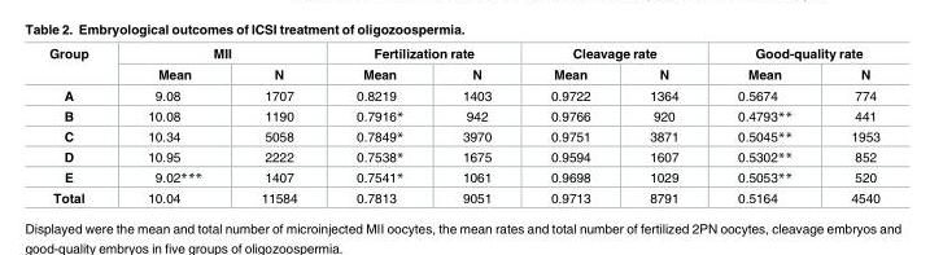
<table><thead><tr><td rowspan="2">Group</td><td colspan="2">MII</td><td colspan="2">Fertilization rate</td><td colspan="2">Cleavage rate</td><td colspan="2">Good-quality rate</td></tr><tr><td>Mean</td><td>N</td><td>Mean</td><td>N</td><td>Mean</td><td>N</td><td>Mean</td><td>N</td></tr></thead><tbody><tr><td>A</td><td>9.08</td><td>1707</td><td>0.8219</td><td>1403</td><td>0.9722</td><td>1364</td><td>0.5674</td><td>774</td></tr><tr><td>B</td><td>10.08</td><td>1190</td><td>0.7916*</td><td>942</td><td>0.9766</td><td>920</td><td>0.4793**</td><td>441</td></tr><tr><td>C</td><td>10.34</td><td>5058</td><td>0.7849*</td><td>3970</td><td>0.9751</td><td>3871</td><td>0.5045**</td><td>1953</td></tr><tr><td>D</td><td>10.95</td><td>2222</td><td>0.7538*</td><td>1675</td><td>0.9594</td><td>1607</td><td>0.5302**</td><td>852</td></tr><tr><td>E</td><td>9.02***</td><td>1407</td><td>0.7541*</td><td>1061</td><td>0.9698</td><td>1029</td><td>0.5053**</td><td>520</td></tr><tr><td>Total</td><td>10.04</td><td>11584</td><td>0.7813</td><td>9051</td><td>0.9713</td><td>8791</td><td>0.5164</td><td>4540</td></tr></tbody></table>